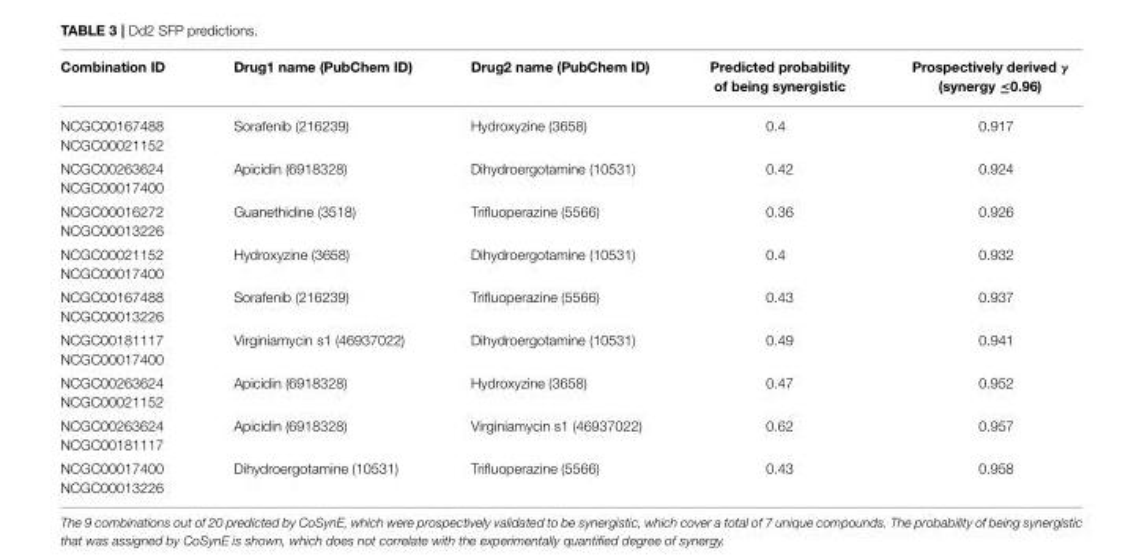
<table><thead><tr><td>Combination ID</td><td>Drug1 name (PubChem ID)</td><td>Drug2 name (PubChem ID)</td><td>Predicted probability of being synergistic</td><td>Prospectively derived γ (synergy ≤0.96)</td></tr></thead><tbody><tr><td>NCGC00167488 NCGC00021152</td><td>Sorafenib (216239)</td><td>Hydroxyzine (3658)</td><td>0.4</td><td>0.917</td></tr><tr><td>NCGC00263624 NCGC00017400</td><td>Apicidin (6918328)</td><td>Dihydroergotamine (10531)</td><td>0.42</td><td>0.924</td></tr><tr><td>NCGC00016272 NCGC00013226</td><td>Guanethidine (3518)</td><td>Trifluoperazine (5566)</td><td>0.36</td><td>0.926</td></tr><tr><td>NCGC00021152 NCGC00017400</td><td>Hydroxyzine (3658)</td><td>Dihydroergotamine (10531)</td><td>0.4</td><td>0.932</td></tr><tr><td>NCGC00167488 NCGC00013226</td><td>Sorafenib (216239)</td><td>Trifluoperazine (5566)</td><td>0.43</td><td>0.937</td></tr><tr><td>NCGC00181117 NCGC00017400</td><td>Virginiamycin s1 (46937022)</td><td>Dihydroergotamine (10531)</td><td>0.49</td><td>0.941</td></tr><tr><td>NCGC00263624 NCGC00021152</td><td>Apicidin (6918328)</td><td>Hydroxyzine (3658)</td><td>0.47</td><td>0.952</td></tr><tr><td>NCGC00263624 NCGC00181117</td><td>Apicidin (6918328)</td><td>Virginiamycin s1 (46937022)</td><td>0.62</td><td>0.957</td></tr><tr><td>NCGC00017400 NCGC00013226</td><td>Dihydroergotamine (10531)</td><td>Trifluoperazine (5566)</td><td>0.43</td><td>0.958</td></tr></tbody></table>